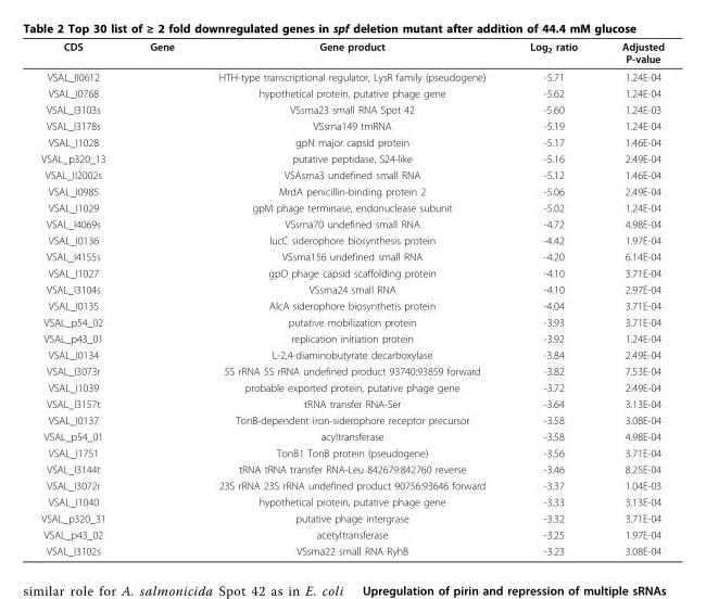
<table><thead><tr><td>CDS</td><td>Gene</td><td>Gene product</td><td>Log<sub>2</sub> ratio</td><td>Adjusted P-value</td></tr></thead><tbody><tr><td>VSAL_II0612</td><td></td><td>HTH-type transcriptional regulator, LysR family (pseudogene)</td><td>-5.71</td><td>1.24E-04</td></tr><tr><td>VSAL_I0768</td><td></td><td>hypothetical protein, putative phage gene</td><td>-5.62</td><td>1.24E-04</td></tr><tr><td>VSAL_I3103s</td><td></td><td>VSsrna23 small RNA Spot 42</td><td>-5.60</td><td>1.24E-03</td></tr><tr><td>VSAL_I3178s</td><td></td><td>VSsrna149 tmRNA</td><td>-5.19</td><td>1.24E-04</td></tr><tr><td>VSAL_I1028</td><td></td><td>gpN major capsid protein</td><td>-5.17</td><td>1.46E-04</td></tr><tr><td>VSAL_p320_13</td><td></td><td>putative peptidase, S24-like</td><td>-5.16</td><td>2.49E-04</td></tr><tr><td>VSAL_II2002s</td><td></td><td>VSAsrna3 undefined small RNA</td><td>-5.12</td><td>1.46E-04</td></tr><tr><td>VSAL_I0985</td><td></td><td>MrdA penicillin-binding protein 2</td><td>-5.06</td><td>2.49E-04</td></tr><tr><td>VSAL_I1029</td><td></td><td>gpM phage terminase, endonuclease subunit</td><td>-5.02</td><td>1.24E-04</td></tr><tr><td>VSAL_I4069s</td><td></td><td>VSsrna70 undefined small RNA</td><td>-4.72</td><td>4.98E-04</td></tr><tr><td>VSAL_I0136</td><td></td><td>IucC siderophore biosynthesis protein</td><td>-4.42</td><td>1.97E-04</td></tr><tr><td>VSAL_I4155s</td><td></td><td>VSsrna156 undefined small RNA</td><td>-4.20</td><td>6.14E-04</td></tr><tr><td>VSAL_I1027</td><td></td><td>gpO phage capsid scaffolding protein</td><td>-4.10</td><td>3.71E-04</td></tr><tr><td>VSAL_I3104s</td><td></td><td>VSsrna24 small RNA</td><td>-4.10</td><td>2.97E-04</td></tr><tr><td>VSAL_I0135</td><td></td><td>AlcA siderophore biosynthetis protein</td><td>-4.04</td><td>3.71E-04</td></tr><tr><td>VSAL_p54_02</td><td></td><td>putative mobilization protein</td><td>-3.93</td><td>3.71E-04</td></tr><tr><td>VSAL_p43_01</td><td></td><td>replication initiation protein</td><td>-3.92</td><td>1.24E-04</td></tr><tr><td>VSAL_I0134</td><td></td><td>L-2,4-diaminobutyrate decarboxylase</td><td>-3.84</td><td>2.49E-04</td></tr><tr><td>VSAL_I3073r</td><td></td><td>5S rRNA 5S rRNA undefined product 93740:93859 forward</td><td>-3.82</td><td>7.53E-04</td></tr><tr><td>VSAL_I1039</td><td></td><td>probable exported protein, putative phage gene</td><td>-3.72</td><td>2.49E-04</td></tr><tr><td>VSAL_I3157t</td><td></td><td>tRNA transfer RNA-Ser</td><td>-3.64</td><td>3.13E-04</td></tr><tr><td>VSAL_I0137</td><td></td><td>TonB-dependent iron-siderophore receptor precursor</td><td>-3.58</td><td>3.08E-04</td></tr><tr><td>VSAL_p54_01</td><td></td><td>acyltransferase</td><td>-3.58</td><td>4.98E-04</td></tr><tr><td>VSAL_I1751</td><td></td><td>TonB1 TonB protein (pseudogene)</td><td>-3.56</td><td>3.71E-04</td></tr><tr><td>VSAL_I3144t</td><td></td><td>tRNA tRNA transfer RNA-Leu 842679:842760 reverse</td><td>-3.46</td><td>8.25E-04</td></tr><tr><td>VSAL_I3072r</td><td></td><td>23S rRNA 23S rRNA undefined product 90756:93646 forward</td><td>-3.37</td><td>1.04E-03</td></tr><tr><td>VSAL_I1040</td><td></td><td>hypothetical protein, putative phage gene</td><td>-3.33</td><td>3.13E-04</td></tr><tr><td>VSAL_p320_31</td><td></td><td>putative phage intergrase</td><td>-3.32</td><td>3.71E-04</td></tr><tr><td>VSAL_p43_02</td><td></td><td>acetyltransferase</td><td>-3.25</td><td>1.97E-04</td></tr><tr><td>VSAL_I3102s</td><td></td><td>VSsrna22 small RNA RyhB</td><td>-3.23</td><td>3.08E-04</td></tr></tbody></table>